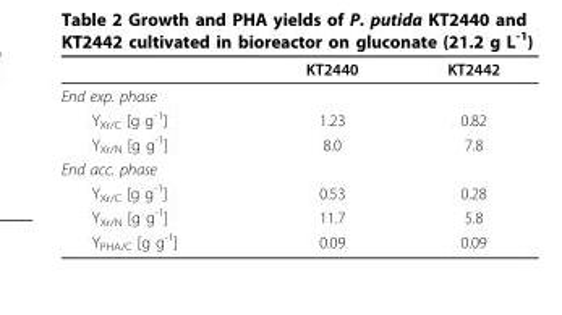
<table><thead><tr><td></td><td>KT2440</td><td>KT2442</td></tr></thead><tbody><tr><td colspan="3">End exp. phase</td></tr><tr><td>Y<sub>Xr/C</sub> [g g<sup>-1</sup>]</td><td>1.23</td><td>0.82</td></tr><tr><td>Y<sub>Xr/N</sub> [g g<sup>-1</sup>]</td><td>8.0</td><td>7.8</td></tr><tr><td colspan="3">End acc. phase</td></tr><tr><td>Y<sub>Xr/C</sub> [g g<sup>-1</sup>]</td><td>0.53</td><td>0.28</td></tr><tr><td>Y<sub>Xr/N</sub> [g g<sup>-1</sup>]</td><td>11.7</td><td>5.8</td></tr><tr><td>Y<sub>PHA/C</sub> [g g<sup>-1</sup>]</td><td>0.09</td><td>0.09</td></tr></tbody></table>